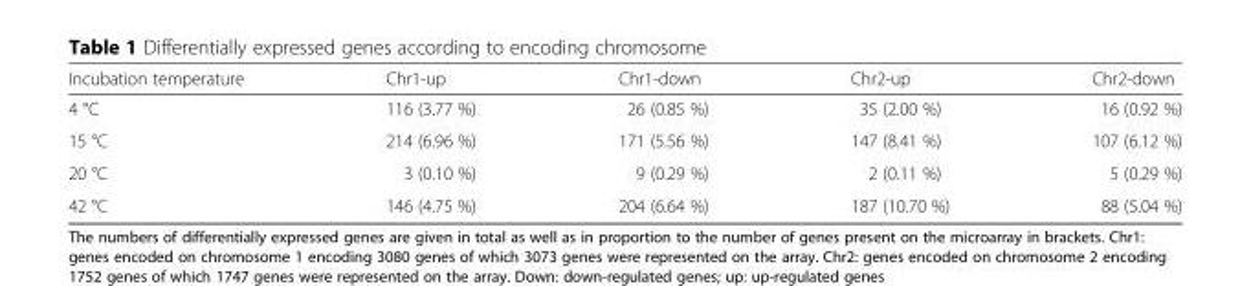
<table><thead><tr><td>Incubation temperature</td><td>Chr1-up</td><td>Chr1-down</td><td>Chr2-up</td><td>Chr2-down</td></tr></thead><tbody><tr><td>4 °C</td><td>116 (3.77 %)</td><td>26 (0.85 %)</td><td>35 (2.00 %)</td><td>16 (0.92 %)</td></tr><tr><td>15 °C</td><td>214 (6.96 %)</td><td>171 (5.56 %)</td><td>147 (8.41 %)</td><td>107 (6.12 %)</td></tr><tr><td>20 °C</td><td>3 (0.10 %)</td><td>9 (0.29 %)</td><td>2 (0.11 %)</td><td>5 (0.29 %)</td></tr><tr><td>42 °C</td><td>146 (4.75 %)</td><td>204 (6.64 %)</td><td>187 (10.70 %)</td><td>88 (5.04 %)</td></tr></tbody></table>